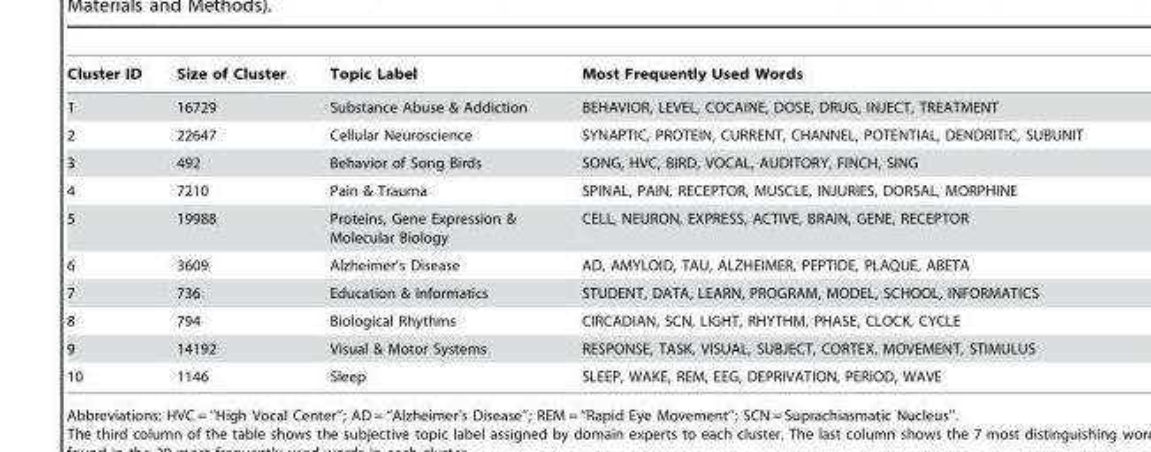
<table><thead><tr><td>Cluster ID</td><td>Size of Cluster</td><td>Topic Label</td><td>Most Frequently Used Words</td></tr></thead><tbody><tr><td>1</td><td>16729</td><td>Substance Abuse &amp; Addiction</td><td>BEHAVIOR, LEVEL, COCAINE, DOSE, DRUG, INJECT, TREATMENT</td></tr><tr><td>2</td><td>22647</td><td>Cellular Neuroscience</td><td>SYNAPTIC, PROTEIN, CURRENT, CHANNEL, POTENTIAL, DENDRITIC, SUBUNIT</td></tr><tr><td>3</td><td>492</td><td>Behavior of Song Birds</td><td>SONG, HVC, BIRD, VOCAL, AUDITORY, FINCH, SING</td></tr><tr><td>4</td><td>7210</td><td>Pain &amp; Trauma</td><td>SPINAL, PAIN, RECEPTOR, MUSCLE, INJURIES, DORSAL, MORPHINE</td></tr><tr><td>5</td><td>19988</td><td>Proteins, Gene Expression &amp; Molecular Biology</td><td>CELL, NEURON, EXPRESS, ACTIVE, BRAIN, GENE, RECEPTOR</td></tr><tr><td>6</td><td>3609</td><td>Alzheimer’s Disease</td><td>AD, AMYLOID, TAU, ALZHEIMER, PEPTIDE, PLAQUE, ABETA</td></tr><tr><td>7</td><td>736</td><td>Education &amp; Informatics</td><td>STUDENT, DATA, LEARN, PROGRAM, MODEL, SCHOOL, INFORMATICS</td></tr><tr><td>8</td><td>794</td><td>Biological Rhythms</td><td>CIRCADIAN, SCN, LIGHT, RHYTHM, PHASE, CLOCK, CYCLE</td></tr><tr><td>9</td><td>14192</td><td>Visual &amp; Motor Systems</td><td>RESPONSE, TASK, VISUAL, SUBJECT, CORTEX, MOVEMENT, STIMULUS</td></tr><tr><td>10</td><td>1146</td><td>Sleep</td><td>SLEEP, WAKE, REM, EEG, DEPRIVATION, PERIOD, WAVE</td></tr></tbody></table>